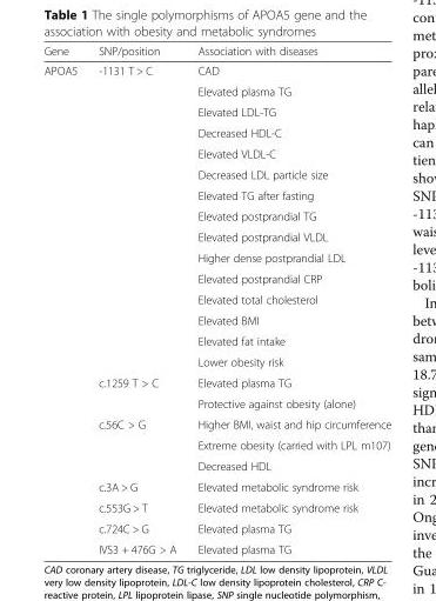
<table><thead><tr><td>Gene</td><td>SNP/position</td><td>Association with diseases</td></tr></thead><tbody><tr><td rowspan="24">APOA5</td><td rowspan="15">-1131 T &gt; C</td><td>CAD</td></tr><tr><td>Elevated plasma TG</td></tr><tr><td>Elevated LDL-TG</td></tr><tr><td>Decreased HDL-C</td></tr><tr><td>Elevated VLDL-C</td></tr><tr><td>Decreased LDL particle size</td></tr><tr><td>Elevated TG after fasting</td></tr><tr><td>Elevated postprandial TG</td></tr><tr><td>Elevated postprandial VLDL</td></tr><tr><td>Higher dense postprandial LDL</td></tr><tr><td>Elevated postprandial CRP</td></tr><tr><td>Elevated total cholesterol</td></tr><tr><td>Elevated BMI</td></tr><tr><td>Elevated fat intake</td></tr><tr><td>Lower obesity risk</td></tr><tr><td rowspan="2">c.1259 T &gt; C</td><td>Elevated plasma TG</td></tr><tr><td>Protective against obesity (alone)</td></tr><tr><td rowspan="3">c.56C &gt; G</td><td>Higher BMI, waist and hip circumference</td></tr><tr><td>Extreme obesity (carried with LPL m107)</td></tr><tr><td>Decreased HDL</td></tr><tr><td>c.3A &gt; G</td><td>Elevated metabolic syndrome risk</td></tr><tr><td>c.553G &gt; T</td><td>Elevated metabolic syndrome risk</td></tr><tr><td>c.724C &gt; G</td><td>Elevated plasma TG</td></tr><tr><td>IVS3 + 476G &gt; A</td><td>Elevated plasma TG</td></tr></tbody></table>